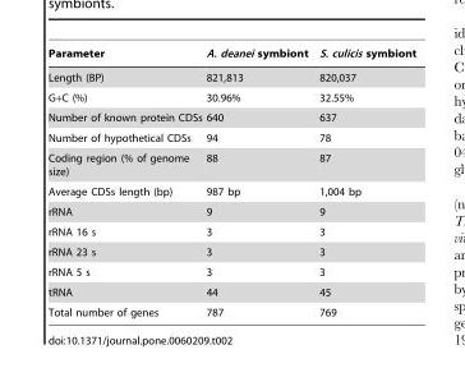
<table><thead><tr><td>Parameter</td><td>A. deanei symbiont</td><td>S. culicis symbiont</td></tr></thead><tbody><tr><td>Length (BP)</td><td>821,813</td><td>820,037</td></tr><tr><td>G+C (%)</td><td>30.96%</td><td>32.55%</td></tr><tr><td>Number of known protein CDSs</td><td>640</td><td>637</td></tr><tr><td>Number of hypothetical CDSs</td><td>94</td><td>78</td></tr><tr><td>Coding region (% of genome size)</td><td>88</td><td>87</td></tr><tr><td>Average CDSs length (bp)</td><td>987 bp</td><td>1,004 bp</td></tr><tr><td>rRNA</td><td>9</td><td>9</td></tr><tr><td>rRNA 16 s</td><td>3</td><td>3</td></tr><tr><td>rRNA 23 s</td><td>3</td><td>3</td></tr><tr><td>rRNA 5 s</td><td>3</td><td>3</td></tr><tr><td>tRNA</td><td>44</td><td>45</td></tr><tr><td>Total number of genes</td><td>787</td><td>769</td></tr></tbody></table>